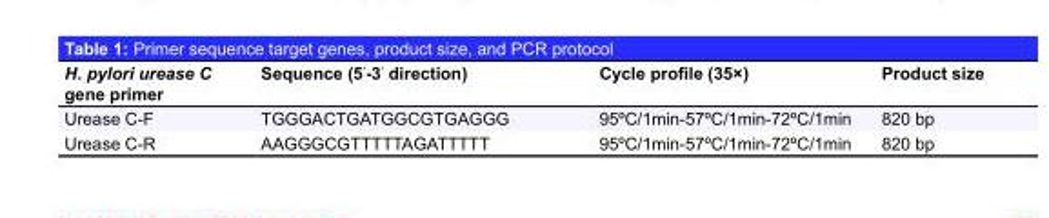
<table><thead><tr><td>H. pylori urease C gene primer</td><td>Sequence (5<sup>’</sup>-3<sup>’</sup> direction)</td><td>Cycle profile (35×)</td><td>Product size</td></tr></thead><tbody><tr><td>Urease C-F</td><td>TGGGACTGATGGCGTGAGGG</td><td>95ºC/1min-57ºC/1min-72ºC/1min</td><td>820 bp</td></tr><tr><td>Urease C-R</td><td>AAGGGCGTTTTTAGATTTTT</td><td>95ºC/1min-57ºC/1min-72ºC/1min</td><td>820 bp</td></tr></tbody></table>